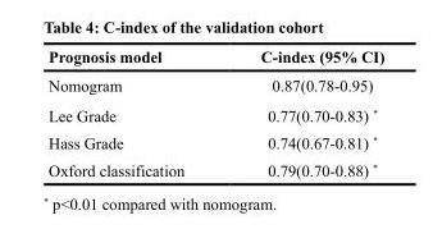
<table><thead><tr><td>Prognosis model</td><td>C-index (95% CI)</td></tr></thead><tbody><tr><td>Nomogram</td><td>0.87(0.78-0.95)</td></tr><tr><td>Lee Grade</td><td>0.77(0.70-0.83) *</td></tr><tr><td>Hass Grade</td><td>0.74(0.67-0.81) *</td></tr><tr><td>Oxford classification</td><td>0.79(0.70-0.88) *</td></tr></tbody></table>